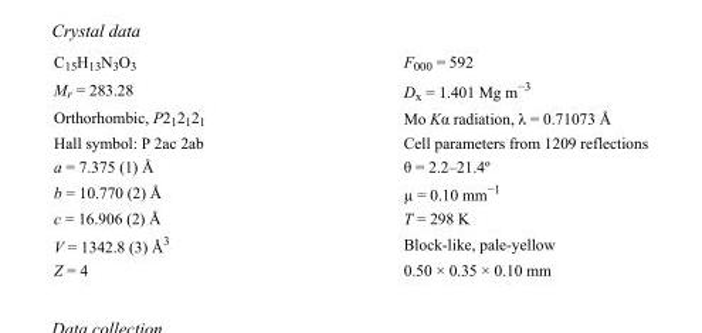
<table><tbody><tr><td>C<sub>15</sub>H<sub>13</sub>N<sub>3</sub>O<sub>3</sub></td><td>F000 = 592</td></tr><tr><td>M<sub>r</sub> = 283.28</td><td>D<sub>x</sub> = 1.401 Mg m<sup>−3</sup></td></tr><tr><td>Orthorhombic, P2<sub>1</sub>2<sub>1</sub>2<sub>1</sub></td><td>Mo Kα radiation, λ = 0.71073 Å</td></tr><tr><td>Hall symbol: P 2ac 2ab</td><td>Cell parameters from 1209 reflections</td></tr><tr><td>a = 7.375 (1) Å</td><td>θ = 2.2–21.4º</td></tr><tr><td>b = 10.770 (2) Å</td><td>µ = 0.10 mm<sup>−1</sup></td></tr><tr><td>c = 16.906 (2) Å</td><td>T = 298 K</td></tr><tr><td>V = 1342.8 (3) Å<sup>3</sup></td><td>Block-like, pale-yellow</td></tr><tr><td>Z = 4</td><td>0.50 × 0.35 × 0.10 mm</td></tr></tbody></table>